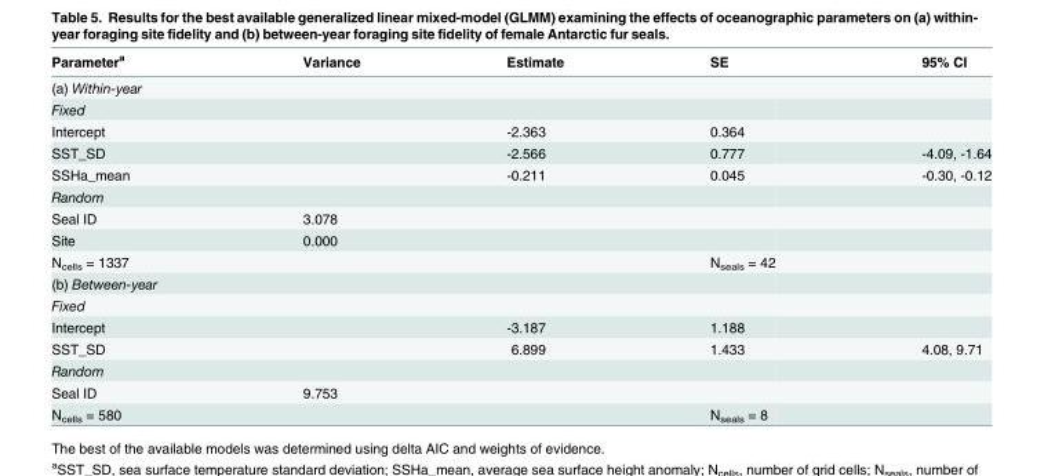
<table><thead><tr><td>Parameter<sup>a</sup></td><td>Variance</td><td>Estimate</td><td>SE</td><td>95% CI</td></tr></thead><tbody><tr><td colspan="5">(a) Within-year</td></tr><tr><td colspan="5">Fixed</td></tr><tr><td>Intercept</td><td></td><td>-2.363</td><td>0.364</td><td></td></tr><tr><td>SST_SD</td><td></td><td>-2.566</td><td>0.777</td><td>-4.09, -1.64</td></tr><tr><td>SSHa_mean</td><td></td><td>-0.211</td><td>0.045</td><td>-0.30, -0.12</td></tr><tr><td colspan="5">Random</td></tr><tr><td>Seal ID</td><td>3.078</td><td></td><td></td><td></td></tr><tr><td>Site</td><td>0.000</td><td></td><td></td><td></td></tr><tr><td>N<sub>cells</sub> = 1337</td><td></td><td></td><td>N<sub>seals</sub> = 42</td><td></td></tr><tr><td colspan="5">(b) Between-year</td></tr><tr><td colspan="5">Fixed</td></tr><tr><td>Intercept</td><td></td><td>-3.187</td><td>1.188</td><td></td></tr><tr><td>SST_SD</td><td></td><td>6.899</td><td>1.433</td><td>4.08, 9.71</td></tr><tr><td colspan="5">Random</td></tr><tr><td>Seal ID</td><td>9.753</td><td></td><td></td><td></td></tr><tr><td>N<sub>cells</sub> = 580</td><td></td><td></td><td>N<sub>seals</sub> = 8</td><td></td></tr></tbody></table>